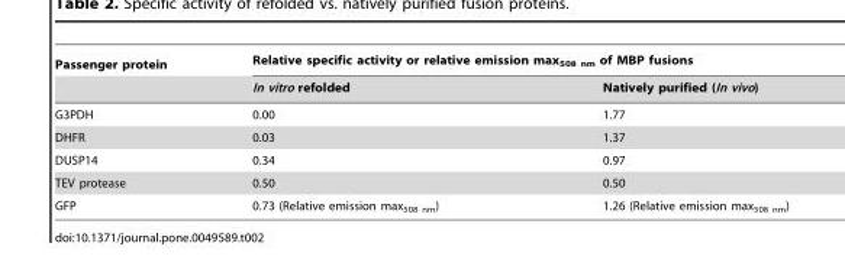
<table><thead><tr><td rowspan="2">Passenger protein</td><td colspan="2">Relative specific activity or relative emission max<sub>508 nm</sub> of MBP fusions</td></tr><tr><td>In vitro refolded</td><td>Natively purified (In vivo)</td></tr></thead><tbody><tr><td>G3PDH</td><td>0.00</td><td>1.77</td></tr><tr><td>DHFR</td><td>0.03</td><td>1.37</td></tr><tr><td>DUSP14</td><td>0.34</td><td>0.97</td></tr><tr><td>TEV protease</td><td>0.50</td><td>0.50</td></tr><tr><td>GFP</td><td>0.73 (Relative emission max<sub>508 nm</sub>)</td><td>1.26 (Relative emission max<sub>508 nm</sub>)</td></tr></tbody></table>